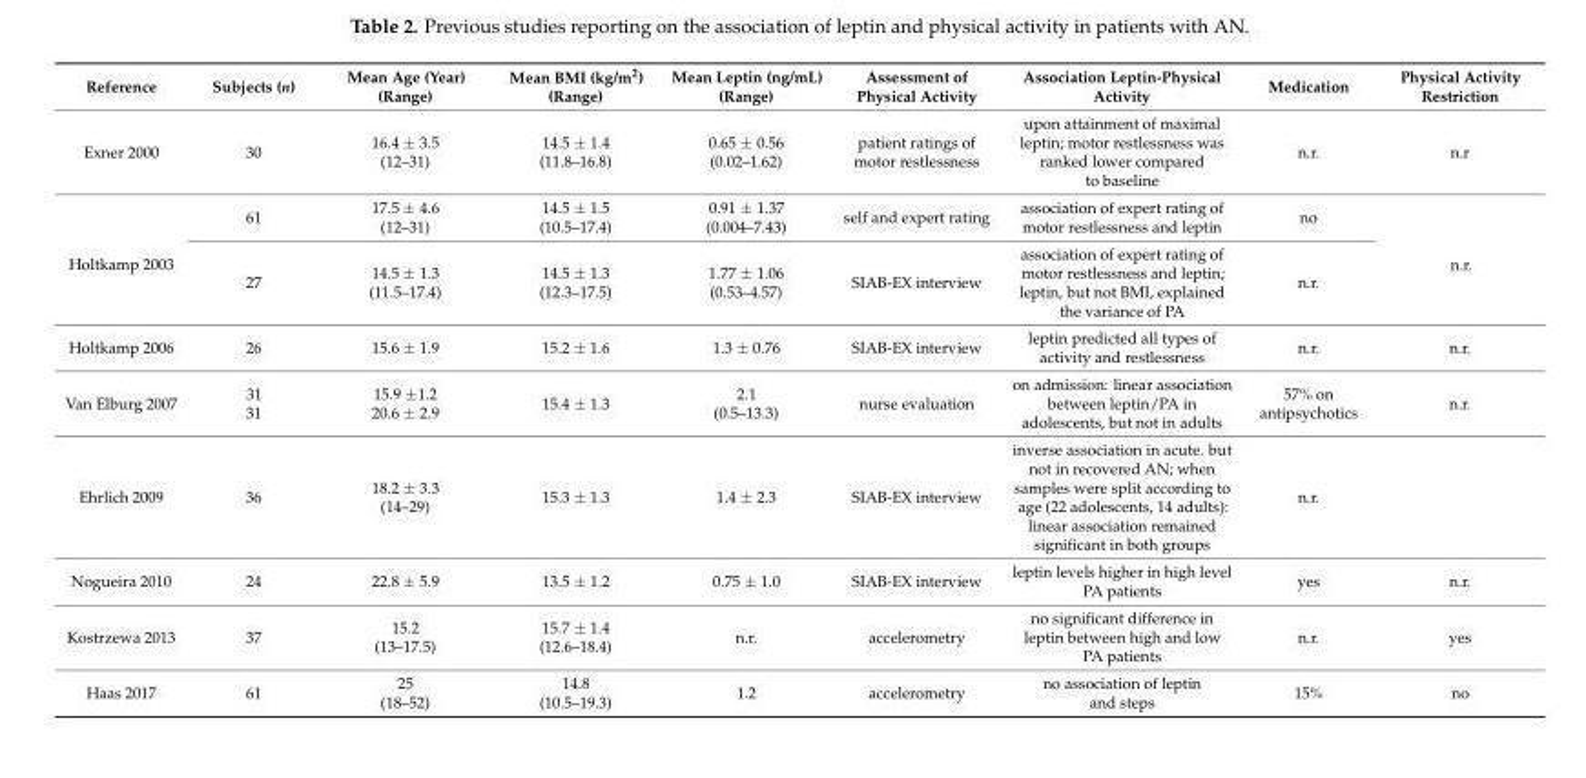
<table><thead><tr><td>Reference</td><td>Subjects (n)</td><td>Mean Age (Year) (Range)</td><td>Mean BMI (kg/m<sup>2</sup>) (Range)</td><td>Mean Leptin (ng/mL) (Range)</td><td>Assessment of Physical Activity</td><td>Association Leptin-Physical Activity</td><td>Medication</td><td>Physical Activity Restriction</td></tr></thead><tbody><tr><td>Exner 2000</td><td>30</td><td>16.4 ± 3.5 (12–31)</td><td>14.5 ± 1.4 (11.8–16.8)</td><td>0.65 ± 0.56 (0.02–1.62)</td><td>patient ratings of motor restlessness</td><td>upon attainment of maximal leptin; motor restlessness was ranked lower compared to baseline</td><td>n.r.</td><td>n.r</td></tr><tr><td rowspan="2">Holtkamp 2003</td><td>61</td><td>17.5 ± 4.6 (12–31)</td><td>14.5 ± 1.5 (10.5–17.4)</td><td>0.91 ± 1.37 (0.004–7.43)</td><td>self and expert rating</td><td>association of expert rating of motor restlessness and leptin</td><td>no</td><td rowspan="2">n.r.</td></tr><tr><td>27</td><td>14.5 ± 1.3 (11.5–17.4)</td><td>14.5 ± 1.3 (12.3–17.5)</td><td>1.77 ± 1.06 (0.53–4.57)</td><td>SIAB-EX interview</td><td>association of expert rating of motor restlessness and leptin; leptin, but not BMI, explained the variance of PA</td><td>n.r.</td></tr><tr><td>Holtkamp 2006</td><td>26</td><td>15.6 ± 1.9</td><td>15.2 ± 1.6</td><td>1.3 ± 0.76</td><td>SIAB-EX interview</td><td>leptin predicted all types of activity and restlessness</td><td>n.r.</td><td>n.r.</td></tr><tr><td>Van Elburg 2007</td><td>31 31</td><td>15.9 ±1.2 20.6 ± 2.9</td><td>15.4 ± 1.3</td><td>2.1 (0.5–13.3)</td><td>nurse evaluation</td><td>on admission: linear association between leptin/PA in adolescents, but not in adults</td><td>57% on antipsychotics</td><td>n.r.</td></tr><tr><td>Ehrlich 2009</td><td>36</td><td>18.2 ± 3.3 (14–29)</td><td>15.3 ± 1.3</td><td>1.4 ± 2.3</td><td>SIAB-EX interview</td><td>inverse association in acute. but not in recovered AN; when samples were split according to age (22 adolescents, 14 adults): linear association remained significant in both groups</td><td>n.r.</td><td></td></tr><tr><td>Nogueira 2010</td><td>24</td><td>22.8 ± 5.9</td><td>13.5 ± 1.2</td><td>0.75 ± 1.0</td><td>SIAB-EX interview</td><td>leptin levels higher in high level PA patients</td><td>yes</td><td>n.r.</td></tr><tr><td>Kostrzewa 2013</td><td>37</td><td>15.2 (13–17.5)</td><td>15.7 ± 1.4 (12.6–18.4)</td><td>n.r.</td><td>accelerometry</td><td>no significant difference in leptin between high and low PA patients</td><td>n.r.</td><td>yes</td></tr><tr><td>Haas 2017</td><td>61</td><td>25 (18–52)</td><td>14.8 (10.5–19.3)</td><td>1.2</td><td>accelerometry</td><td>no association of leptin and steps</td><td>15%</td><td>no</td></tr></tbody></table>